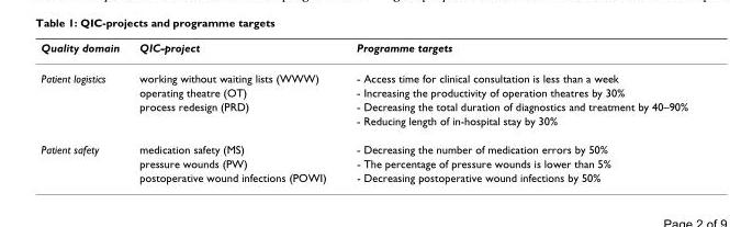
<table><thead><tr><td>Quality domain</td><td>QIC-project</td><td>Programme targets</td></tr></thead><tbody><tr><td rowspan="4">Patient logistics</td><td>working without waiting lists (WWW)</td><td>- Access time for clinical consultation is less than a week</td></tr><tr><td>operating theatre (OT)</td><td>- Increasing the productivity of operation theatres by 30%</td></tr><tr><td>process redesign (PRD)</td><td>- Decreasing the total duration of diagnostics and treatment by 40–90%</td></tr><tr><td></td><td>- Reducing length of in-hospital stay by 30%</td></tr><tr><td rowspan="3">Patient safety</td><td>medication safety (MS)</td><td>- Decreasing the number of medication errors by 50%</td></tr><tr><td>pressure wounds (PW)</td><td>- The percentage of pressure wounds is lower than 5%</td></tr><tr><td>postoperative wound infections (POWI)</td><td>- Decreasing postoperative wound infections by 50%</td></tr></tbody></table>